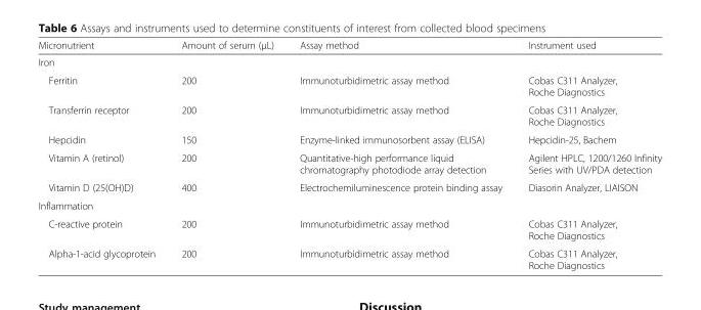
<table><thead><tr><td>Micronutrient</td><td>Amount of serum (μL)</td><td>Assay method</td><td>Instrument used</td></tr></thead><tbody><tr><td colspan="4">Iron</td></tr><tr><td>Ferritin</td><td>200</td><td>Immunoturbidimetric assay method</td><td>Cobas C311 Analyzer, Roche Diagnostics</td></tr><tr><td>Transferrin receptor</td><td>200</td><td>Immunoturbidimetric assay method</td><td>Cobas C311 Analyzer, Roche Diagnostics</td></tr><tr><td>Hepcidin</td><td>150</td><td>Enzyme-linked immunosorbent assay (ELISA)</td><td>Hepcidin-25, Bachem</td></tr><tr><td>Vitamin A (retinol)</td><td>200</td><td>Quantitative-high performance liquid chromatography photodiode array detection</td><td>Agilent HPLC, 1200/1260 Infinity Series with UV/PDA detection</td></tr><tr><td>Vitamin D (25(OH)D)</td><td>400</td><td>Electrochemiluminescence protein binding assay</td><td>Diasorin Analyzer, LIAISON</td></tr><tr><td colspan="4">Inflammation</td></tr><tr><td>C-reactive protein</td><td>200</td><td>Immunoturbidimetric assay method</td><td>Cobas C311 Analyzer, Roche Diagnostics</td></tr><tr><td>Alpha-1-acid glycoprotein</td><td>200</td><td>Immunoturbidimetric assay method</td><td>Cobas C311 Analyzer, Roche Diagnostics</td></tr></tbody></table>